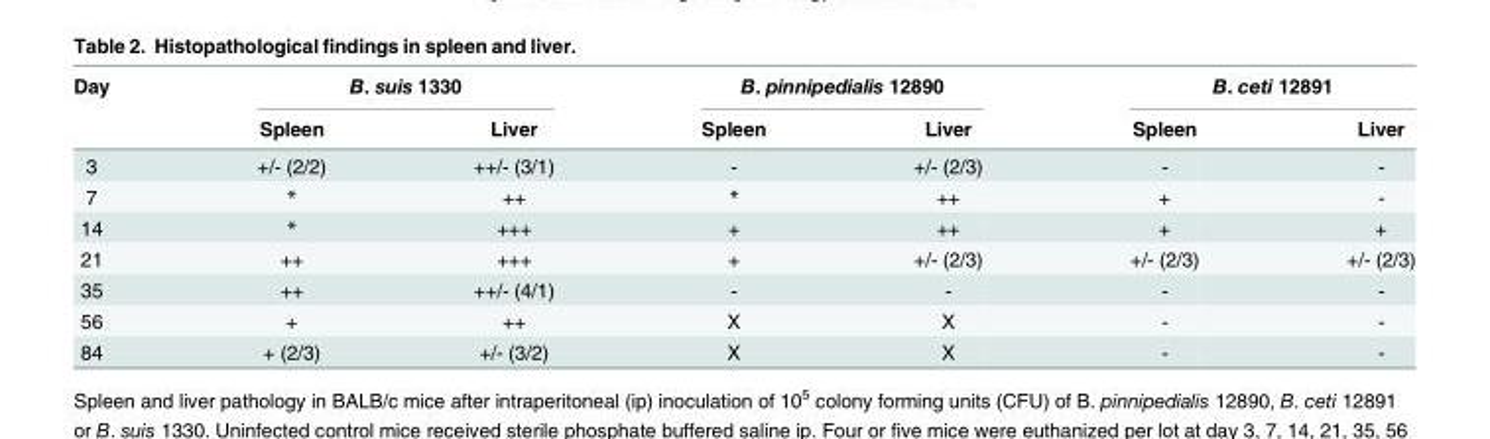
<table><thead><tr><td rowspan="2">Day</td><td colspan="2">B. suis 1330</td><td colspan="2">B. pinnipedialis 12890</td><td colspan="2">B. ceti 12891</td></tr><tr><td>Spleen</td><td>Liver</td><td>Spleen</td><td>Liver</td><td>Spleen</td><td>Liver</td></tr></thead><tbody><tr><td>3</td><td>+/- (2/2)</td><td>++/- (3/1)</td><td>-</td><td>+/- (2/3)</td><td>-</td><td>-</td></tr><tr><td>7</td><td>*</td><td>++</td><td>*</td><td>++</td><td>+</td><td>-</td></tr><tr><td>14</td><td>*</td><td>+++</td><td>+</td><td>++</td><td>+</td><td>+</td></tr><tr><td>21</td><td>++</td><td>+++</td><td>+</td><td>+/- (2/3)</td><td>+/- (2/3)</td><td>+/- (2/3)</td></tr><tr><td>35</td><td>++</td><td>++/- (4/1)</td><td>-</td><td>-</td><td>-</td><td>-</td></tr><tr><td>56</td><td>+</td><td>++</td><td>X</td><td>X</td><td>-</td><td>-</td></tr><tr><td>84</td><td>+ (2/3)</td><td>+/- (3/2)</td><td>X</td><td>X</td><td>-</td><td>-</td></tr></tbody></table>